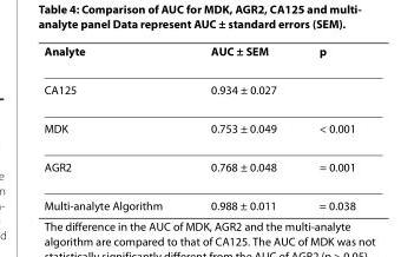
<table><thead><tr><td>Analyte</td><td>AUC ± SEM</td><td>p</td></tr></thead><tbody><tr><td>CA125</td><td>0.934 ± 0.027</td><td></td></tr><tr><td>MDK</td><td>0.753 ± 0.049</td><td>&lt; 0.001</td></tr><tr><td>AGR2</td><td>0.768 ± 0.048</td><td>= 0.001</td></tr><tr><td>Multi-analyte Algorithm</td><td>0.988 ± 0.011</td><td>= 0.038</td></tr></tbody></table>